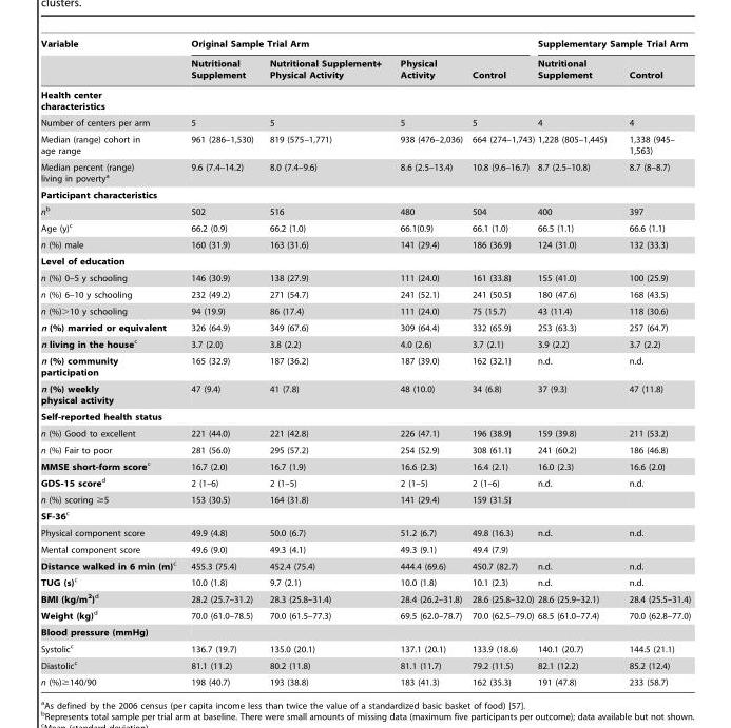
<table><thead><tr><td rowspan="2">Variable</td><td colspan="4">Original Sample Trial Arm</td><td colspan="2">Supplementary Sample Trial Arm</td></tr><tr><td>Nutritional Supplement</td><td>Nutritional Supplement+ Physical Activity</td><td>Physical Activity</td><td>Control</td><td>Nutritional Supplement</td><td>Control</td></tr></thead><tbody><tr><td colspan="7">Health center characteristics</td></tr><tr><td>Number of centers per arm</td><td>5</td><td>5</td><td>5</td><td>5</td><td>4</td><td>4</td></tr><tr><td>Median (range) cohort in age range</td><td>961 (286–1,530)</td><td>819 (575–1,771)</td><td>938 (476–2,036)</td><td>664 (274–1,743)</td><td>1,228 (805–1,445)</td><td>1,338 (945– 1,563)</td></tr><tr><td>Median percent (range) living in poverty<sup>a</sup></td><td>9.6 (7.4–14.2)</td><td>8.0 (7.4–9.6)</td><td>8.6 (2.5–13.4)</td><td>10.8 (9.6–16.7)</td><td>8.7 (2.5–10.8)</td><td>8.7 (8–8.7)</td></tr><tr><td colspan="7">Participant characteristics</td></tr><tr><td>nb</td><td>502</td><td>516</td><td>480</td><td>504</td><td>400</td><td>397</td></tr><tr><td>Age (y)<sup>c</sup></td><td>66.2 (0.9)</td><td>66.2 (1.0)</td><td>66.1(0.9)</td><td>66.1 (1.0)</td><td>66.5 (1.1)</td><td>66.6 (1.1)</td></tr><tr><td>n (%) male</td><td>160 (31.9)</td><td>163 (31.6)</td><td>141 (29.4)</td><td>186 (36.9)</td><td>124 (31.0)</td><td>132 (33.3)</td></tr><tr><td colspan="7">Level of education</td></tr><tr><td>n (%) 0–5 y schooling</td><td>146 (30.9)</td><td>138 (27.9)</td><td>111 (24.0)</td><td>161 (33.8)</td><td>155 (41.0)</td><td>100 (25.9)</td></tr><tr><td>n (%) 6–10 y schooling</td><td>232 (49.2)</td><td>271 (54.7)</td><td>241 (52.1)</td><td>241 (50.5)</td><td>180 (47.6)</td><td>168 (43.5)</td></tr><tr><td>n (%)&gt;10 y schooling</td><td>94 (19.9)</td><td>86 (17.4)</td><td>111 (24.0)</td><td>75 (15.7)</td><td>43 (11.4)</td><td>118 (30.6)</td></tr><tr><td>n (%) married or equivalent</td><td>326 (64.9)</td><td>349 (67.6)</td><td>309 (64.4)</td><td>332 (65.9)</td><td>253 (63.3)</td><td>257 (64.7)</td></tr><tr><td>n living in the housec</td><td>3.7 (2.0)</td><td>3.8 (2.2)</td><td>4.0 (2.6)</td><td>3.7 (2.1)</td><td>3.9 (2.2)</td><td>3.7 (2.2)</td></tr><tr><td>n (%) community participation</td><td>165 (32.9)</td><td>187 (36.2)</td><td>187 (39.0)</td><td>162 (32.1)</td><td>n.d.</td><td>n.d.</td></tr><tr><td>n (%) weekly physical activity</td><td>47 (9.4)</td><td>41 (7.8)</td><td>48 (10.0)</td><td>34 (6.8)</td><td>37 (9.3)</td><td>47 (11.8)</td></tr><tr><td colspan="7">Self-reported health status</td></tr><tr><td>n (%) Good to excellent</td><td>221 (44.0)</td><td>221 (42.8)</td><td>226 (47.1)</td><td>196 (38.9)</td><td>159 (39.8)</td><td>211 (53.2)</td></tr><tr><td>n (%) Fair to poor</td><td>281 (56.0)</td><td>295 (57.2)</td><td>254 (52.9)</td><td>308 (61.1)</td><td>241 (60.2)</td><td>186 (46.8)</td></tr><tr><td>MMSE short-form scorec</td><td>16.7 (2.0)</td><td>16.7 (1.9)</td><td>16.6 (2.3)</td><td>16.4 (2.1)</td><td>16.0 (2.3)</td><td>16.6 (2.0)</td></tr><tr><td>GDS-15 scored</td><td>2 (1–6)</td><td>2 (1–5)</td><td>2 (1–5)</td><td>2 (1–6)</td><td>n.d.</td><td>n.d.</td></tr><tr><td>n (%) scoring ≥5</td><td>153 (30.5)</td><td>164 (31.8)</td><td>141 (29.4)</td><td>159 (31.5)</td><td></td><td></td></tr><tr><td colspan="7">SF-36c</td></tr><tr><td>Physical component score</td><td>49.9 (4.8)</td><td>50.0 (6.7)</td><td>51.2 (6.7)</td><td>49.8 (16.3)</td><td>n.d.</td><td>n.d.</td></tr><tr><td>Mental component score</td><td>49.6 (9.0)</td><td>49.3 (4.1)</td><td>49.3 (9.1)</td><td>49.4 (7.9)</td><td></td><td></td></tr><tr><td>Distance walked in 6 min (m)c</td><td>455.3 (75.4)</td><td>452.4 (75.4)</td><td>444.4 (69.6)</td><td>450.7 (82.7)</td><td>n.d.</td><td>n.d.</td></tr><tr><td>TUG (s)c</td><td>10.0 (1.8)</td><td>9.7 (2.1)</td><td>10.0 (1.8)</td><td>10.1 (2.3)</td><td>n.d.</td><td>n.d.</td></tr><tr><td>BMI (kg/m<sup>2</sup>)d</td><td>28.2 (25.7–31.2)</td><td>28.3 (25.8–31.4)</td><td>28.4 (26.2–31.8)</td><td>28.6 (25.8–32.0)</td><td>28.6 (25.9–32.1)</td><td>28.4 (25.5–31.4)</td></tr><tr><td>Weight (kg)d</td><td>70.0 (61.0–78.5)</td><td>70.0 (61.5–77.3)</td><td>69.5 (62.0–78.7)</td><td>70.0 (62.5–79.0)</td><td>68.5 (61.0–77.4)</td><td>70.0 (62.8–77.0)</td></tr><tr><td colspan="7">Blood pressure (mmHg)</td></tr><tr><td>Systolic<sup>c</sup></td><td>136.7 (19.7)</td><td>135.0 (20.1)</td><td>137.1 (20.1)</td><td>133.9 (18.6)</td><td>140.1 (20.7)</td><td>144.5 (21.1)</td></tr><tr><td>Diastolic<sup>c</sup></td><td>81.1 (11.2)</td><td>80.2 (11.8)</td><td>81.1 (11.7)</td><td>79.2 (11.5)</td><td>82.1 (12.2)</td><td>85.2 (12.4)</td></tr><tr><td>n (%)≥140/90</td><td>198 (40.7)</td><td>193 (38.8)</td><td>183 (41.3)</td><td>162 (35.3)</td><td>191 (47.8)</td><td>233 (58.7)</td></tr></tbody></table>